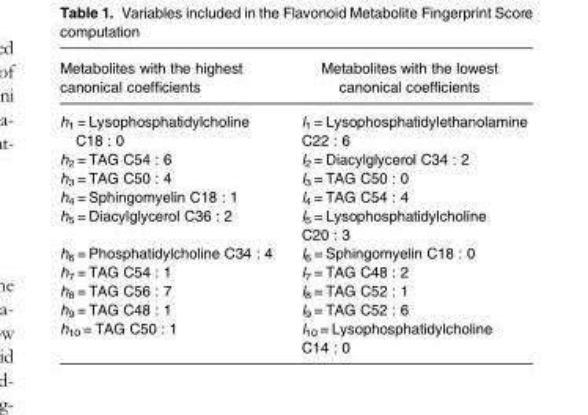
<table><thead><tr><td>Metabolites with the highest canonical coefficients</td><td>Metabolites with the lowest canonical coefficients</td></tr></thead><tbody><tr><td>h<sub>1</sub> = Lysophosphatidylcholine C18 : 0</td><td>l<sub>1</sub> = Lysophosphatidylethanolamine C22 : 6</td></tr><tr><td>h<sub>2</sub> = TAG C54 : 6</td><td>l<sub>2</sub> = Diacylglycerol C34 : 2</td></tr><tr><td>h<sub>3</sub> = TAG C50 : 4</td><td>l<sub>3</sub> = TAG C50 : 0</td></tr><tr><td>h<sub>4</sub> = Sphingomyelin C18 : 1</td><td>l<sub>4</sub> = TAG C54 : 4</td></tr><tr><td>h<sub>5</sub> = Diacylglycerol C36 : 2</td><td>l<sub>5</sub> = Lysophosphatidylcholine C20 : 3</td></tr><tr><td>h<sub>6</sub> = Phosphatidylcholine C34 : 4</td><td>l<sub>6</sub> = Sphingomyelin C18 : 0</td></tr><tr><td>h<sub>7</sub> = TAG C54 : 1</td><td>l<sub>7</sub> = TAG C48 : 2</td></tr><tr><td>h<sub>8</sub> = TAG C56 : 7</td><td>l<sub>8</sub> = TAG C52 : 1</td></tr><tr><td>h<sub>9</sub> = TAG C48 : 1</td><td>l<sub>9</sub> = TAG C52 : 6</td></tr><tr><td>h<sub>10</sub> = TAG C50 : 1</td><td>l<sub>10</sub> = Lysophosphatidylcholine C14 : 0</td></tr></tbody></table>